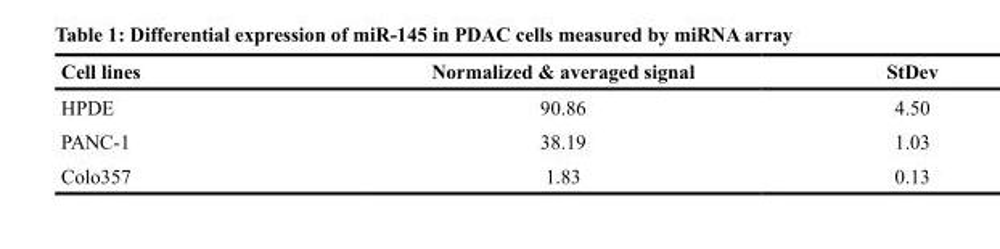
<table><thead><tr><td>Cell lines</td><td>Normalized &amp; averaged signal</td><td>StDev</td></tr></thead><tbody><tr><td>HPDE</td><td>90.86</td><td>4.50</td></tr><tr><td>PANC-1</td><td>38.19</td><td>1.03</td></tr><tr><td>Colo357</td><td>1.83</td><td>0.13</td></tr></tbody></table>